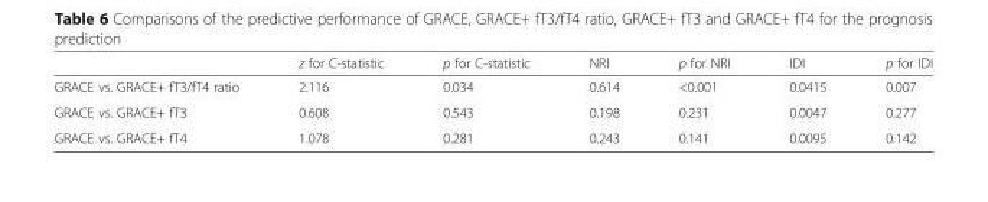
<table><thead><tr><td></td><td>z for C-statistic</td><td>p for C-statistic</td><td>NRI</td><td>p for NRI</td><td>IDI</td><td>p for IDI</td></tr></thead><tbody><tr><td>GRACE vs. GRACE+ fT3/fT4 ratio</td><td>2.116</td><td>0.034</td><td>0.614</td><td>&lt;0.001</td><td>0.0415</td><td>0.007</td></tr><tr><td>GRACE vs. GRACE+ fT3</td><td>0.608</td><td>0.543</td><td>0.198</td><td>0.231</td><td>0.0047</td><td>0.277</td></tr><tr><td>GRACE vs. GRACE+ fT4</td><td>1.078</td><td>0.281</td><td>0.243</td><td>0.141</td><td>0.0095</td><td>0.142</td></tr></tbody></table>